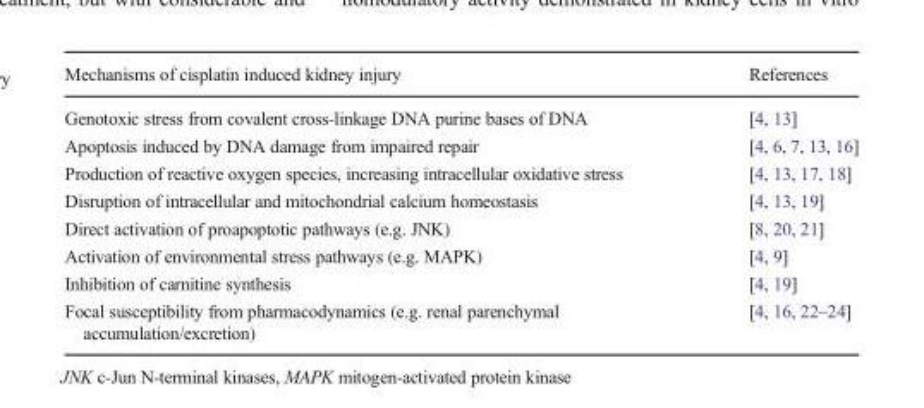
<table><thead><tr><td>Mechanisms of cisplatin induced kidney injury</td><td>References</td></tr></thead><tbody><tr><td>Genotoxic stress from covalent cross-linkage DNA purine bases of DNA</td><td>[4, 13]</td></tr><tr><td>Apoptosis induced by DNA damage from impaired repair</td><td>[4, 6, 7, 13, 16]</td></tr><tr><td>Production of reactive oxygen species, increasing intracellular oxidative stress</td><td>[4, 13, 17, 18]</td></tr><tr><td>Disruption of intracellular and mitochondrial calcium homeostasis</td><td>[4, 13, 19]</td></tr><tr><td>Direct activation of proapoptotic pathways (e.g. JNK)</td><td>[8, 20, 21]</td></tr><tr><td>Activation of environmental stress pathways (e.g. MAPK)</td><td>[4, 9]</td></tr><tr><td>Inhibition of carnitine synthesis</td><td>[4, 19]</td></tr><tr><td>Focal susceptibility from pharmacodynamics (e.g. renal parenchymal accumulation/excretion)</td><td>[4, 16, 22–24]</td></tr></tbody></table>